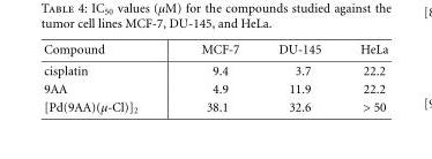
<table><thead><tr><td>Compound</td><td>MCF-7</td><td>DU-145</td><td>HeLa</td></tr></thead><tbody><tr><td>cisplatin</td><td>9.4</td><td>3.7</td><td>22.2</td></tr><tr><td>9AA</td><td>4.9</td><td>11.9</td><td>22.2</td></tr><tr><td>[Pd(9AA)(μ-Cl)]<sub>2</sub></td><td>38.1</td><td>32.6</td><td>&gt; 50</td></tr></tbody></table>